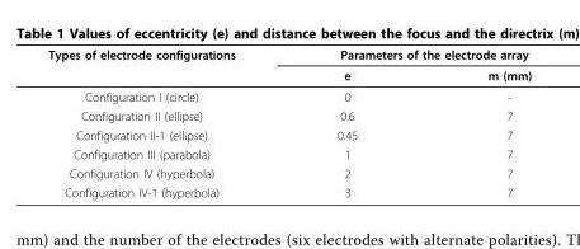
<table><thead><tr><td rowspan="2">Types of electrode configurations</td><td colspan="2">Parameters of the electrode array</td></tr><tr><td>e</td><td>m (mm)</td></tr></thead><tbody><tr><td>Configuration I (circle)</td><td>0</td><td>-</td></tr><tr><td>Configuration II (ellipse)</td><td>0.6</td><td>7</td></tr><tr><td>Configuration II-1 (ellipse)</td><td>0.45</td><td>7</td></tr><tr><td>Configuration III (parabola)</td><td>1</td><td>7</td></tr><tr><td>Configuration IV (hyperbola)</td><td>2</td><td>7</td></tr><tr><td>Configuration IV-1 (hyperbola)</td><td>3</td><td>7</td></tr></tbody></table>